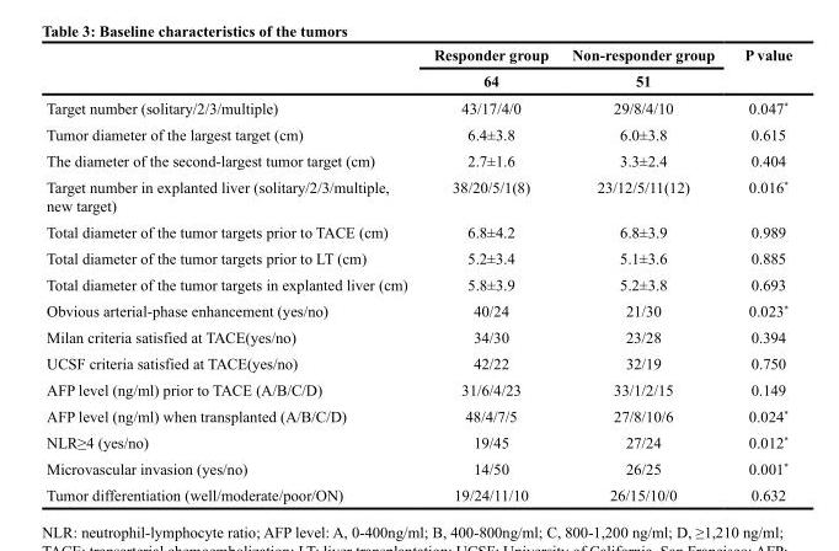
<table><thead><tr><td rowspan="2"></td><td rowspan="2">Responder group 64</td><td rowspan="2">Non-responder group 51</td><td rowspan="2">P value</td></tr><tr></tr></thead><tbody><tr><td>Target number (solitary/2/3/multiple)</td><td>43/17/4/0</td><td>29/8/4/10</td><td>0.047*</td></tr><tr><td>Tumor diameter of the largest target (cm)</td><td>6.4±3.8</td><td>6.0±3.8</td><td>0.615</td></tr><tr><td>The diameter of the second-largest tumor target (cm)</td><td>2.7±1.6</td><td>3.3±2.4</td><td>0.404</td></tr><tr><td>Target number in explanted liver (solitary/2/3/multiple, new target)</td><td>38/20/5/1(8)</td><td>23/12/5/11(12)</td><td>0.016*</td></tr><tr><td>Total diameter of the tumor targets prior to TACE (cm)</td><td>6.8±4.2</td><td>6.8±3.9</td><td>0.989</td></tr><tr><td>Total diameter of the tumor targets prior to LT (cm)</td><td>5.2±3.4</td><td>5.1±3.6</td><td>0.885</td></tr><tr><td>Total diameter of the tumor targets in explanted liver (cm)</td><td>5.8±3.9</td><td>5.2±3.8</td><td>0.693</td></tr><tr><td>Obvious arterial-phase enhancement (yes/no)</td><td>40/24</td><td>21/30</td><td>0.023*</td></tr><tr><td>Milan criteria satisfied at TACE(yes/no)</td><td>34/30</td><td>23/28</td><td>0.394</td></tr><tr><td>UCSF criteria satisfied at TACE(yes/no)</td><td>42/22</td><td>32/19</td><td>0.750</td></tr><tr><td>AFP level (ng/ml) prior to TACE (A/B/C/D)</td><td>31/6/4/23</td><td>33/1/2/15</td><td>0.149</td></tr><tr><td>AFP level (ng/ml) when transplanted (A/B/C/D)</td><td>48/4/7/5</td><td>27/8/10/6</td><td>0.024*</td></tr><tr><td>NLR≥4 (yes/no)</td><td>19/45</td><td>27/24</td><td>0.012*</td></tr><tr><td>Microvascular invasion (yes/no)</td><td>14/50</td><td>26/25</td><td>0.001*</td></tr><tr><td>Tumor differentiation (well/moderate/poor/ON)</td><td>19/24/11/10</td><td>26/15/10/0</td><td>0.632</td></tr></tbody></table>